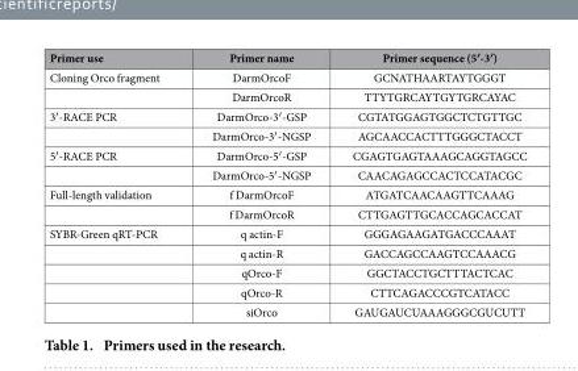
<table><thead><tr><td>Primer use</td><td>Primer name</td><td>Primer sequence (5′-3′)</td></tr></thead><tbody><tr><td rowspan="2">Cloning Orco fragment</td><td>DarmOrcoF</td><td>GCNATHAARTAYTGGGT</td></tr><tr><td>DarmOrcoR</td><td>TTYTGRCAYTGYTGRCAYAC</td></tr><tr><td rowspan="2">3′ -RACE PCR</td><td>DarmOrco-3′ -GSP</td><td>CGTATGGAGTGGCTCTGTTGC</td></tr><tr><td>DarmOrco-3′ -NGSP</td><td>AGCAACCACTTTGGGCTACCT</td></tr><tr><td rowspan="2">5′ -RACE PCR</td><td>DarmOrco-5′ -GSP</td><td>CGAGTGAGTAAAGCAGGTAGCC</td></tr><tr><td>DarmOrco-5′ -NGSP</td><td>CAACAGAGCCACTCCATACGC</td></tr><tr><td rowspan="2">Full-length validation</td><td>f DarmOrcoF</td><td>ATGATCAACAAGTTCAAAG</td></tr><tr><td>f DarmOrcoR</td><td>CTTGAGTTGCACCAGCACCAT</td></tr><tr><td rowspan="5">SYBR-Green qRT-PCR</td><td>q actin-F</td><td>GGGAGAAGATGACCCAAAT</td></tr><tr><td>q actin-R</td><td>GACCAGCCAAGTCCAAACG</td></tr><tr><td>qOrco-F</td><td>GGCTACCTGCTTTACTCAC</td></tr><tr><td>qOrco-R</td><td>CTTCAGACCCGTCATACC</td></tr><tr><td>siOrco</td><td>GAUGAUCUAAAGGGCGUCUTT</td></tr></tbody></table>